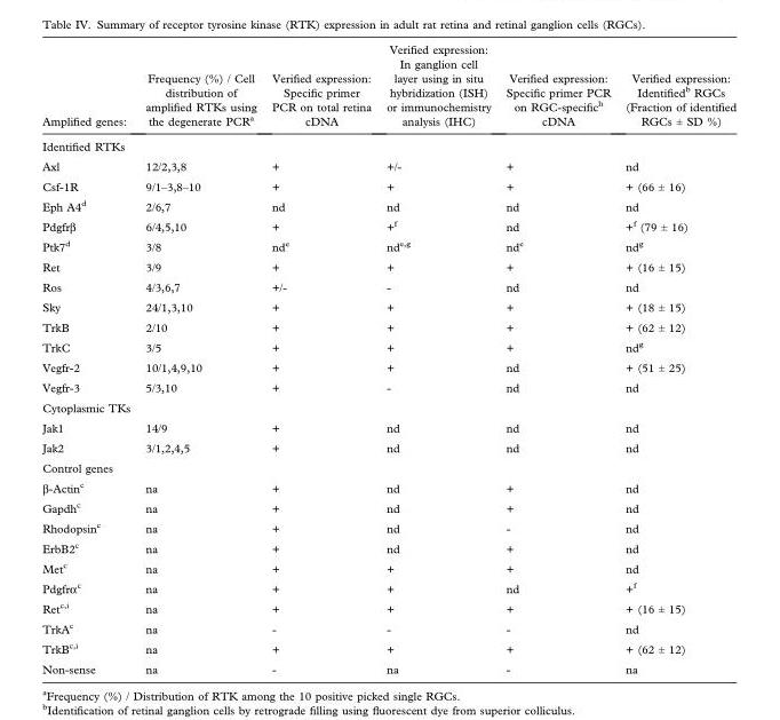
<table><thead><tr><td>Amplified genes:</td><td>Frequency (%) / Cell distribution of amplified RTKs using the degenerate PCR<sup>a</sup></td><td>Verified expression: Specific primer PCR on total retina cDNA</td><td>Verified expression: In ganglion cell layer using in situ hybridization (ISH) or immunochemistry analysis (IHC)</td><td>Verified expression: Specific primer PCR on RGC-specific<sup>h</sup> cDNA</td><td>Verified expression: Identified<sup>b</sup> RGCs (Fraction of identified RGCs ± SD %)</td></tr></thead><tbody><tr><td colspan="6">Identified RTKs</td></tr><tr><td>Axl</td><td>12/2,3,8</td><td>+</td><td>+/-</td><td>+</td><td>nd</td></tr><tr><td>Csf-1R</td><td>9/1–3,8–10</td><td>+</td><td>+</td><td>+</td><td>+ (66 ± 16)</td></tr><tr><td>Eph A4<sup>d</sup></td><td>2/6,7</td><td>nd</td><td>nd</td><td>nd</td><td>nd</td></tr><tr><td>Pdgfrβ</td><td>6/4,5,10</td><td>+</td><td>+<sup>f</sup></td><td>nd</td><td>+<sup>f</sup> (79 ± 16)</td></tr><tr><td>Ptk7<sup>d</sup></td><td>3/8</td><td>nd<sup>e</sup></td><td>nd<sup>e,g</sup></td><td>nd<sup>e</sup></td><td>nd<sup>g</sup></td></tr><tr><td>Ret</td><td>3/9</td><td>+</td><td>+</td><td>+</td><td>+ (16 ± 15)</td></tr><tr><td>Ros</td><td>4/3,6,7</td><td>+/-</td><td>-</td><td>nd</td><td>nd</td></tr><tr><td>Sky</td><td>24/1,3,10</td><td>+</td><td>+</td><td>+</td><td>+ (18 ± 15)</td></tr><tr><td>TrkB</td><td>2/10</td><td>+</td><td>+</td><td>+</td><td>+ (62 ± 12)</td></tr><tr><td>TrkC</td><td>3/5</td><td>+</td><td>+</td><td>+</td><td>nd<sup>g</sup></td></tr><tr><td>Vegfr-2</td><td>10/1,4,9,10</td><td>+</td><td>+</td><td>nd</td><td>+ (51 ± 25)</td></tr><tr><td>Vegfr-3</td><td>5/3,10</td><td>+</td><td>-</td><td>nd</td><td>nd</td></tr><tr><td colspan="6">Cytoplasmic TKs</td></tr><tr><td>Jak1</td><td>14/9</td><td>+</td><td>nd</td><td>nd</td><td>nd</td></tr><tr><td>Jak2</td><td>3/1,2,4,5</td><td>+</td><td>nd</td><td>nd</td><td>nd</td></tr><tr><td colspan="6">Control genes</td></tr><tr><td>β-Actin<sup>c</sup></td><td>na</td><td>+</td><td>nd</td><td>+</td><td>nd</td></tr><tr><td>Gapdh<sup>c</sup></td><td>na</td><td>+</td><td>nd</td><td>+</td><td>nd</td></tr><tr><td>Rhodopsin<sup>c</sup></td><td>na</td><td>+</td><td>nd</td><td>-</td><td>nd</td></tr><tr><td>ErbB2<sup>c</sup></td><td>na</td><td>+</td><td>nd</td><td>+</td><td>nd</td></tr><tr><td>Met<sup>c</sup></td><td>na</td><td>+</td><td>+</td><td>+</td><td>nd</td></tr><tr><td>Pdgfrα<sup>c</sup></td><td>na</td><td>+</td><td>+</td><td>nd</td><td>+<sup>f</sup></td></tr><tr><td>Ret<sup>c,i</sup></td><td>na</td><td>+</td><td>+</td><td>+</td><td>+ (16 ± 15)</td></tr><tr><td>TrkA<sup>c</sup></td><td>na</td><td>-</td><td>-</td><td>-</td><td>nd</td></tr><tr><td>TrkB<sup>c,i</sup></td><td>na</td><td>+</td><td>+</td><td>+</td><td>+ (62 ± 12)</td></tr><tr><td>Non-sense</td><td>na</td><td>-</td><td>na</td><td>-</td><td>na</td></tr></tbody></table>